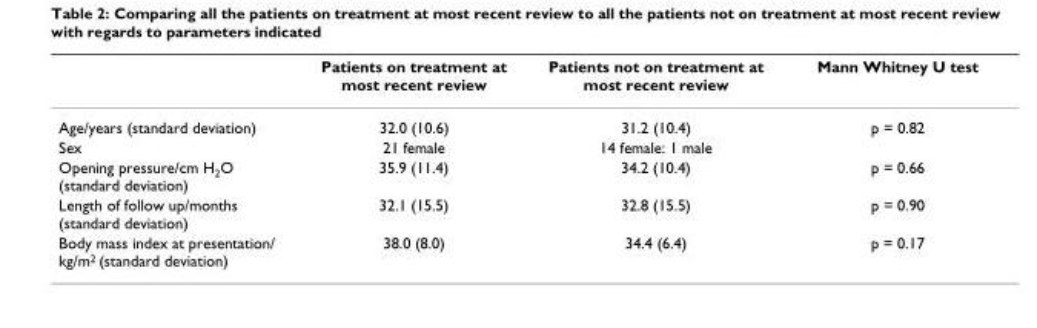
<table><thead><tr><td></td><td>Patients on treatment at most recent review</td><td>Patients not on treatment at most recent review</td><td>Mann Whitney U test</td></tr></thead><tbody><tr><td>Age/years (standard deviation)</td><td>32.0 (10.6)</td><td>31.2 (10.4)</td><td>p = 0.82</td></tr><tr><td>Sex</td><td>21 female</td><td>14 female: 1 male</td><td></td></tr><tr><td>Opening pressure/cm H<sub>2</sub>O (standard deviation)</td><td>35.9 (11.4)</td><td>34.2 (10.4)</td><td>p = 0.66</td></tr><tr><td>Length of follow up/months (standard deviation)</td><td>32.1 (15.5)</td><td>32.8 (15.5)</td><td>p = 0.90</td></tr><tr><td>Body mass index at presentation/ kg/m<sup>2</sup> (standard deviation)</td><td>38.0 (8.0)</td><td>34.4 (6.4)</td><td>p = 0.17</td></tr></tbody></table>